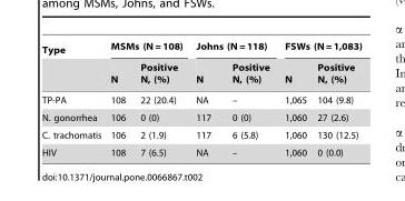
<table><thead><tr><td rowspan="2">Type</td><td colspan="2">MSMs (N = 108)</td><td colspan="2">Johns (N = 118)</td><td colspan="2">FSWs (N = 1,083)</td></tr><tr><td>N</td><td>Positive N, (%)</td><td>N</td><td>Positive N, (%)</td><td>N</td><td>Positive N, (%)</td></tr></thead><tbody><tr><td>TP-PA</td><td>108</td><td>22 (20.4)</td><td>NA</td><td>–</td><td>1,065</td><td>104 (9.8)</td></tr><tr><td>N. gonorrhea</td><td>106</td><td>0 (0)</td><td>117</td><td>0 (0)</td><td>1,060</td><td>27 (2.6)</td></tr><tr><td>C. trachomatis</td><td>106</td><td>2 (1.9)</td><td>117</td><td>6 (5.8)</td><td>1,060</td><td>130 (12.5)</td></tr><tr><td>HIV</td><td>108</td><td>7 (6.5)</td><td>NA</td><td>–</td><td>1,060</td><td>0 (0.0)</td></tr></tbody></table>